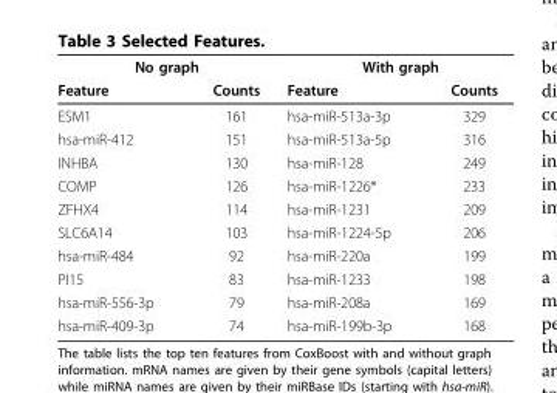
<table><thead><tr><td colspan="2">No graph</td><td colspan="2">With graph</td></tr><tr><td>Feature</td><td>Counts</td><td>Feature</td><td>Counts</td></tr></thead><tbody><tr><td>ESM1</td><td>161</td><td>hsa-miR-513a-3p</td><td>329</td></tr><tr><td>hsa-miR-412</td><td>151</td><td>hsa-miR-513a-5p</td><td>316</td></tr><tr><td>INHBA</td><td>130</td><td>hsa-miR-128</td><td>249</td></tr><tr><td>COMP</td><td>126</td><td>hsa-miR-1226*</td><td>233</td></tr><tr><td>ZFHX4</td><td>114</td><td>hsa-miR-1231</td><td>209</td></tr><tr><td>SLC6A14</td><td>103</td><td>hsa-miR-1224-5p</td><td>206</td></tr><tr><td>hsa-miR-484</td><td>92</td><td>hsa-miR-220a</td><td>199</td></tr><tr><td>PI15</td><td>83</td><td>hsa-miR-1233</td><td>198</td></tr><tr><td>hsa-miR-556-3p</td><td>79</td><td>hsa-miR-208a</td><td>169</td></tr><tr><td>hsa-miR-409-3p</td><td>74</td><td>hsa-miR-199b-3p</td><td>168</td></tr></tbody></table>